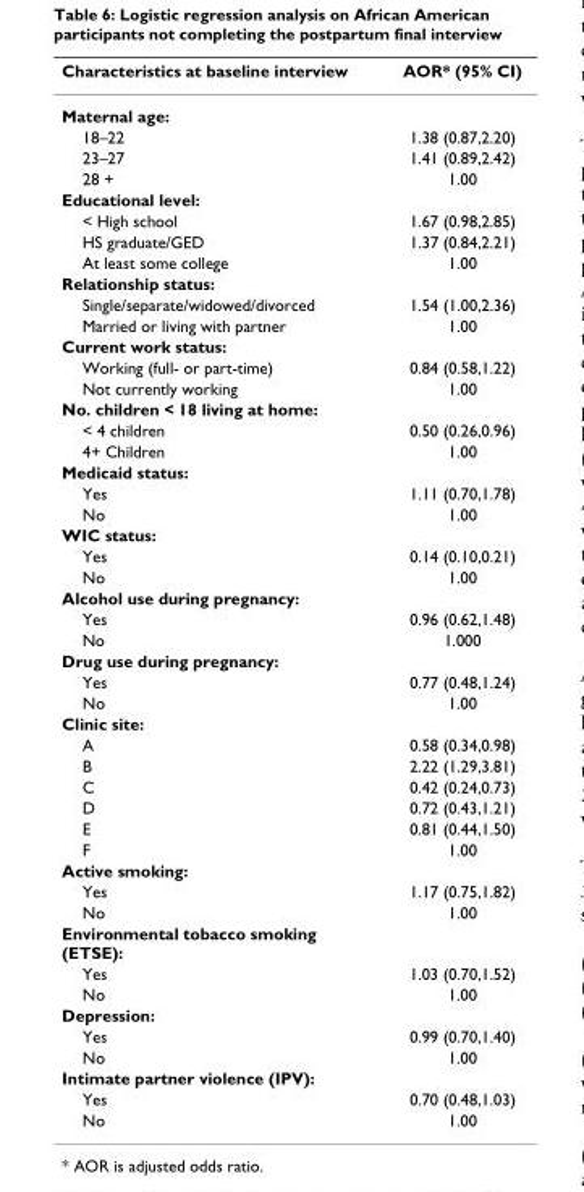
<table><thead><tr><td>Characteristics at baseline interview</td><td>AOR* (95% CI)</td></tr></thead><tbody><tr><td colspan="2">Maternal age:</td></tr><tr><td>18–22</td><td>1.38 (0.87,2.20)</td></tr><tr><td>23–27</td><td>1.41 (0.89,2.42)</td></tr><tr><td>28 +</td><td>1.00</td></tr><tr><td colspan="2">Educational level:</td></tr><tr><td>&lt; High school</td><td>1.67 (0.98,2.85)</td></tr><tr><td>HS graduate/GED</td><td>1.37 (0.84,2.21)</td></tr><tr><td>At least some college</td><td>1.00</td></tr><tr><td colspan="2">Relationship status:</td></tr><tr><td>Single/separate/widowed/divorced</td><td>1.54 (1.00,2.36)</td></tr><tr><td>Married or living with partner</td><td>1.00</td></tr><tr><td colspan="2">Current work status:</td></tr><tr><td>Working (full- or part-time)</td><td>0.84 (0.58,1.22)</td></tr><tr><td>Not currently working</td><td>1.00</td></tr><tr><td colspan="2">No. children &lt; 18 living at home:</td></tr><tr><td>&lt; 4 children</td><td>0.50 (0.26,0.96)</td></tr><tr><td>4+ Children</td><td>1.00</td></tr><tr><td colspan="2">Medicaid status:</td></tr><tr><td>Yes</td><td>1.11 (0.70,1.78)</td></tr><tr><td>No</td><td>1.00</td></tr><tr><td colspan="2">WIC status:</td></tr><tr><td>Yes</td><td>0.14 (0.10,0.21)</td></tr><tr><td>No</td><td>1.00</td></tr><tr><td colspan="2">Alcohol use during pregnancy:</td></tr><tr><td>Yes</td><td>0.96 (0.62,1.48)</td></tr><tr><td>No</td><td>1.000</td></tr><tr><td colspan="2">Drug use during pregnancy:</td></tr><tr><td>Yes</td><td>0.77 (0.48,1.24)</td></tr><tr><td>No</td><td>1.00</td></tr><tr><td colspan="2">Clinic site:</td></tr><tr><td>A</td><td>0.58 (0.34,0.98)</td></tr><tr><td>B</td><td>2.22 (1.29,3.81)</td></tr><tr><td>C</td><td>0.42 (0.24,0.73)</td></tr><tr><td>D</td><td>0.72 (0.43,1.21)</td></tr><tr><td>E</td><td>0.81 (0.44,1.50)</td></tr><tr><td>F</td><td>1.00</td></tr><tr><td colspan="2">Active smoking:</td></tr><tr><td>Yes</td><td>1.17 (0.75,1.82)</td></tr><tr><td>No</td><td>1.00</td></tr><tr><td colspan="2">Environmental tobacco smoking (ETSE):</td></tr><tr><td>Yes</td><td>1.03 (0.70,1.52)</td></tr><tr><td>No</td><td>1.00</td></tr><tr><td colspan="2">Depression:</td></tr><tr><td>Yes</td><td>0.99 (0.70,1.40)</td></tr><tr><td>No</td><td>1.00</td></tr><tr><td colspan="2">Intimate partner violence (IPV):</td></tr><tr><td>Yes</td><td>0.70 (0.48,1.03)</td></tr><tr><td>No</td><td>1.00</td></tr></tbody></table>